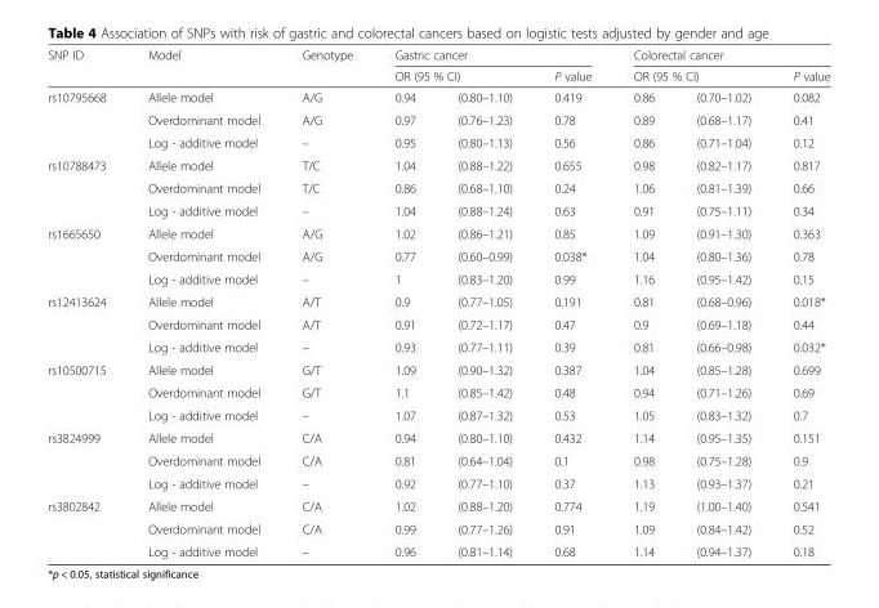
<table><thead><tr><td rowspan="3">SNP ID rs10795668</td><td rowspan="3">Model Allele model</td><td rowspan="3">Genotype A/G</td><td colspan="3">Gastric cancer</td><td colspan="3">Colorectal cancer</td></tr><tr><td colspan="2">OR (95 % CI)</td><td rowspan="2">P value 0.419</td><td colspan="2">OR (95 % CI)</td><td rowspan="2">P value 0.082</td></tr><tr><td>0.94</td><td>(0.80–1.10)</td><td>0.86</td><td>(0.70–1.02)</td></tr></thead><tbody><tr><td></td><td>Overdominant model</td><td>A/G</td><td>0.97</td><td>(0.76–1.23)</td><td>0.78</td><td>0.89</td><td>(0.68–1.17)</td><td>0.41</td></tr><tr><td></td><td>Log - additive model</td><td>–</td><td>0.95</td><td>(0.80–1.13)</td><td>0.56</td><td>0.86</td><td>(0.71–1.04)</td><td>0.12</td></tr><tr><td rowspan="3">rs10788473</td><td>Allele model</td><td>T/C</td><td>1.04</td><td>(0.88–1.22)</td><td>0.655</td><td>0.98</td><td>(0.82–1.17)</td><td>0.817</td></tr><tr><td>Overdominant model</td><td>T/C</td><td>0.86</td><td>(0.68–1.10)</td><td>0.24</td><td>1.06</td><td>(0.81–1.39)</td><td>0.66</td></tr><tr><td>Log - additive model</td><td>–</td><td>1.04</td><td>(0.88–1.24)</td><td>0.63</td><td>0.91</td><td>(0.75–1.11)</td><td>0.34</td></tr><tr><td rowspan="3">rs1665650</td><td>Allele model</td><td>A/G</td><td>1.02</td><td>(0.86–1.21)</td><td>0.85</td><td>1.09</td><td>(0.91–1.30)</td><td>0.363</td></tr><tr><td>Overdominant model</td><td>A/G</td><td>0.77</td><td>(0.60–0.99)</td><td>0.038*</td><td>1.04</td><td>(0.80–1.36)</td><td>0.78</td></tr><tr><td>Log - additive model</td><td>–</td><td>1</td><td>(0.83–1.20)</td><td>0.99</td><td>1.16</td><td>(0.95–1.42)</td><td>0.15</td></tr><tr><td rowspan="3">rs12413624</td><td>Allele model</td><td>A/T</td><td>0.9</td><td>(0.77–1.05)</td><td>0.191</td><td>0.81</td><td>(0.68–0.96)</td><td>0.018*</td></tr><tr><td>Overdominant model</td><td>A/T</td><td>0.91</td><td>(0.72–1.17)</td><td>0.47</td><td>0.9</td><td>(0.69–1.18)</td><td>0.44</td></tr><tr><td>Log - additive model</td><td>–</td><td>0.93</td><td>(0.77–1.11)</td><td>0.39</td><td>0.81</td><td>(0.66–0.98)</td><td>0.032*</td></tr><tr><td rowspan="3">rs10500715</td><td>Allele model</td><td>G/T</td><td>1.09</td><td>(0.90–1.32)</td><td>0.387</td><td>1.04</td><td>(0.85–1.28)</td><td>0.699</td></tr><tr><td>Overdominant model</td><td>G/T</td><td>1.1</td><td>(0.85–1.42)</td><td>0.48</td><td>0.94</td><td>(0.71–1.26)</td><td>0.69</td></tr><tr><td>Log - additive model</td><td>–</td><td>1.07</td><td>(0.87–1.32)</td><td>0.53</td><td>1.05</td><td>(0.83–1.32)</td><td>0.7</td></tr><tr><td rowspan="3">rs3824999</td><td>Allele model</td><td>C/A</td><td>0.94</td><td>(0.80–1.10)</td><td>0.432</td><td>1.14</td><td>(0.95–1.35)</td><td>0.151</td></tr><tr><td>Overdominant model</td><td>C/A</td><td>0.81</td><td>(0.64–1.04)</td><td>0.1</td><td>0.98</td><td>(0.75–1.28)</td><td>0.9</td></tr><tr><td>Log - additive model</td><td>–</td><td>0.92</td><td>(0.77–1.10)</td><td>0.37</td><td>1.13</td><td>(0.93–1.37)</td><td>0.21</td></tr><tr><td rowspan="3">rs3802842</td><td>Allele model</td><td>C/A</td><td>1.02</td><td>(0.88–1.20)</td><td>0.774</td><td>1.19</td><td>(1.00–1.40)</td><td>0.541</td></tr><tr><td>Overdominant model</td><td>C/A</td><td>0.99</td><td>(0.77–1.26)</td><td>0.91</td><td>1.09</td><td>(0.84–1.42)</td><td>0.52</td></tr><tr><td>Log - additive model</td><td>–</td><td>0.96</td><td>(0.81–1.14)</td><td>0.68</td><td>1.14</td><td>(0.94–1.37)</td><td>0.18</td></tr></tbody></table>